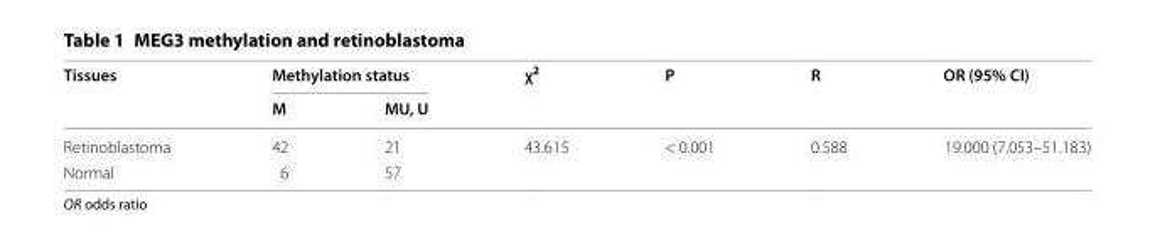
<table><thead><tr><td rowspan="2">Tissues</td><td colspan="2">Methylation status</td><td rowspan="2">χ<sup>2</sup></td><td rowspan="2">P</td><td rowspan="2">R</td><td rowspan="2">OR (95% CI)</td></tr><tr><td>M</td><td>MU, U</td></tr></thead><tbody><tr><td>Retinoblastoma</td><td>42</td><td>21</td><td rowspan="2">43.615</td><td rowspan="2">&lt; 0.001</td><td rowspan="2">0.588</td><td rowspan="2">19.000 (7.053–51.183)</td></tr><tr><td>Normal</td><td>6</td><td>57</td></tr></tbody></table>